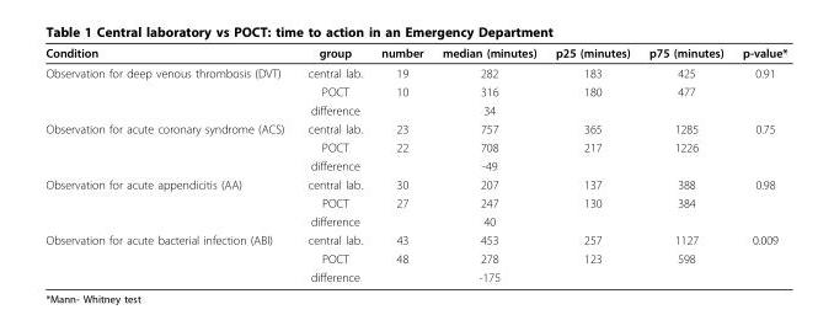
<table><thead><tr><td>Condition</td><td>group</td><td>number</td><td>median (minutes)</td><td>p25 (minutes)</td><td>p75 (minutes)</td><td>p-value*</td></tr></thead><tbody><tr><td rowspan="3">Observation for deep venous thrombosis (DVT)</td><td>central lab.</td><td>19</td><td>282</td><td>183</td><td>425</td><td>0.91</td></tr><tr><td>POCT</td><td>10</td><td>316</td><td>180</td><td>477</td><td></td></tr><tr><td>difference</td><td></td><td>34</td><td></td><td></td><td></td></tr><tr><td rowspan="3">Observation for acute coronary syndrome (ACS)</td><td>central lab.</td><td>23</td><td>757</td><td>365</td><td>1285</td><td>0.75</td></tr><tr><td>POCT</td><td>22</td><td>708</td><td>217</td><td>1226</td><td></td></tr><tr><td>difference</td><td></td><td>-49</td><td></td><td></td><td></td></tr><tr><td rowspan="3">Observation for acute appendicitis (AA)</td><td>central lab.</td><td>30</td><td>207</td><td>137</td><td>388</td><td>0.98</td></tr><tr><td>POCT</td><td>27</td><td>247</td><td>130</td><td>384</td><td></td></tr><tr><td>difference</td><td></td><td>40</td><td></td><td></td><td></td></tr><tr><td rowspan="3">Observation for acute bacterial infection (ABI)</td><td>central lab.</td><td>43</td><td>453</td><td>257</td><td>1127</td><td>0.009</td></tr><tr><td>POCT</td><td>48</td><td>278</td><td>123</td><td>598</td><td></td></tr><tr><td>difference</td><td></td><td>-175</td><td></td><td></td><td></td></tr></tbody></table>